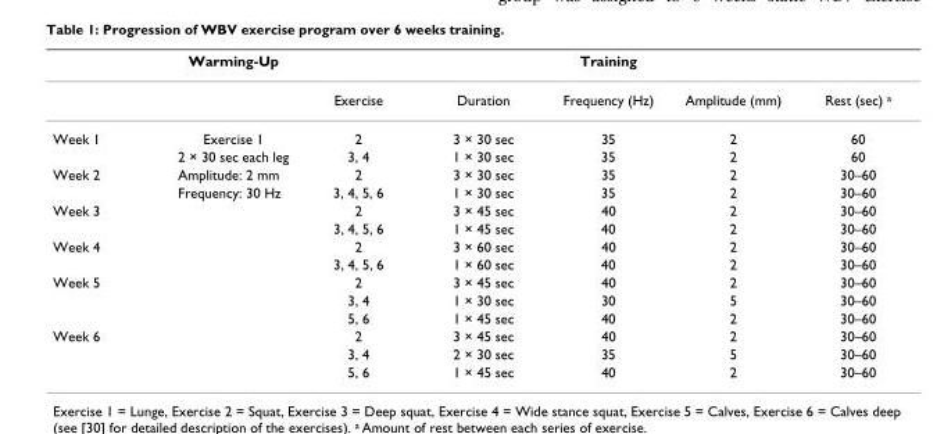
<table><thead><tr><td rowspan="2"></td><td rowspan="2">Warming-Up</td><td colspan="5">Training</td></tr><tr><td>Exercise</td><td>Duration</td><td>Frequency (Hz)</td><td>Amplitude (mm)</td><td>Rest (sec) <sup>a</sup></td></tr></thead><tbody><tr><td rowspan="2">Week 1</td><td>Exercise 1</td><td>2</td><td>3 × 30 sec</td><td>35</td><td>2</td><td>60</td></tr><tr><td>2 × 30 sec each leg</td><td>3, 4</td><td>1 × 30 sec</td><td>35</td><td>2</td><td>60</td></tr><tr><td rowspan="2">Week 2</td><td>Amplitude: 2 mm</td><td>2</td><td>3 × 30 sec</td><td>35</td><td>2</td><td>30–60</td></tr><tr><td>Frequency: 30 Hz</td><td>3, 4, 5, 6</td><td>1 × 30 sec</td><td>35</td><td>2</td><td>30–60</td></tr><tr><td rowspan="2">Week 3</td><td></td><td>2</td><td>3 × 45 sec</td><td>40</td><td>2</td><td>30–60</td></tr><tr><td></td><td>3, 4, 5, 6</td><td>1 × 45 sec</td><td>40</td><td>2</td><td>30–60</td></tr><tr><td rowspan="2">Week 4</td><td></td><td>2</td><td>3 × 60 sec</td><td>40</td><td>2</td><td>30–60</td></tr><tr><td></td><td>3, 4, 5, 6</td><td>1 × 60 sec</td><td>40</td><td>2</td><td>30–60</td></tr><tr><td rowspan="3">Week 5</td><td></td><td>2</td><td>3 × 45 sec</td><td>40</td><td>2</td><td>30–60</td></tr><tr><td></td><td>3, 4</td><td>1 × 30 sec</td><td>30</td><td>5</td><td>30–60</td></tr><tr><td></td><td>5, 6</td><td>1 × 45 sec</td><td>40</td><td>2</td><td>30–60</td></tr><tr><td rowspan="3">Week 6</td><td></td><td>2</td><td>3 × 45 sec</td><td>40</td><td>2</td><td>30–60</td></tr><tr><td></td><td>3, 4</td><td>2 × 30 sec</td><td>35</td><td>5</td><td>30–60</td></tr><tr><td></td><td>5, 6</td><td>1 × 45 sec</td><td>40</td><td>2</td><td>30–60</td></tr></tbody></table>